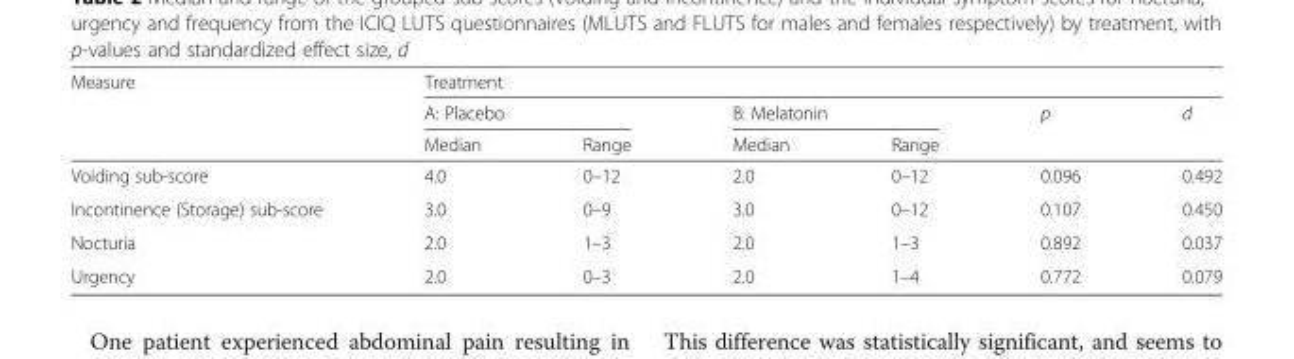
<table><thead><tr><td rowspan="3">Measure</td><td colspan="6">Treatment</td></tr><tr><td colspan="2">A: Placebo</td><td colspan="2">B: Melatonin</td><td rowspan="2">p</td><td rowspan="2">d</td></tr><tr><td>Median</td><td>Range</td><td>Median</td><td>Range</td></tr></thead><tbody><tr><td>Voiding sub-score</td><td>4.0</td><td>0–12</td><td>2.0</td><td>0–12</td><td>0.096</td><td>0.492</td></tr><tr><td>Incontinence (Storage) sub-score</td><td>3.0</td><td>0–9</td><td>3.0</td><td>0–12</td><td>0.107</td><td>0.450</td></tr><tr><td>Nocturia</td><td>2.0</td><td>1–3</td><td>2.0</td><td>1–3</td><td>0.892</td><td>0.037</td></tr><tr><td>Urgency</td><td>2.0</td><td>0–3</td><td>2.0</td><td>1–4</td><td>0.772</td><td>0.079</td></tr></tbody></table>